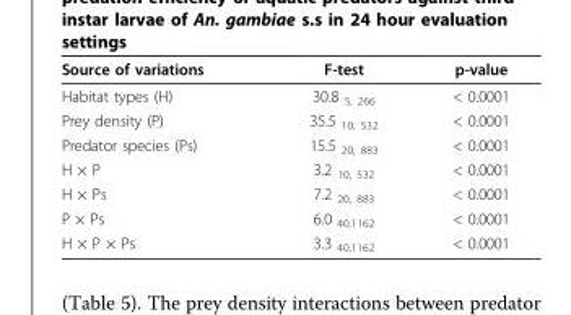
<table><thead><tr><td>Source of variations</td><td>F-test</td><td>p-value</td></tr></thead><tbody><tr><td>Habitat types (H)</td><td>30.8 <sub>5, 266</sub></td><td>&lt; 0.0001</td></tr><tr><td>Prey density (P)</td><td>35.5 <sub>10, 532</sub></td><td>&lt; 0.0001</td></tr><tr><td>Predator species (Ps)</td><td>15.5 <sub>20, 883</sub></td><td>&lt; 0.0001</td></tr><tr><td>H × P</td><td>3.2 <sub>10, 532</sub></td><td>&lt; 0.0001</td></tr><tr><td>H × Ps</td><td>7.2 <sub>20, 883</sub></td><td>&lt; 0.0001</td></tr><tr><td>P × Ps</td><td>6.0 <sub>40,1162</sub></td><td>&lt; 0.0001</td></tr><tr><td>H × P × Ps</td><td>3.3 <sub>40,1162</sub></td><td>&lt; 0.0001</td></tr></tbody></table>